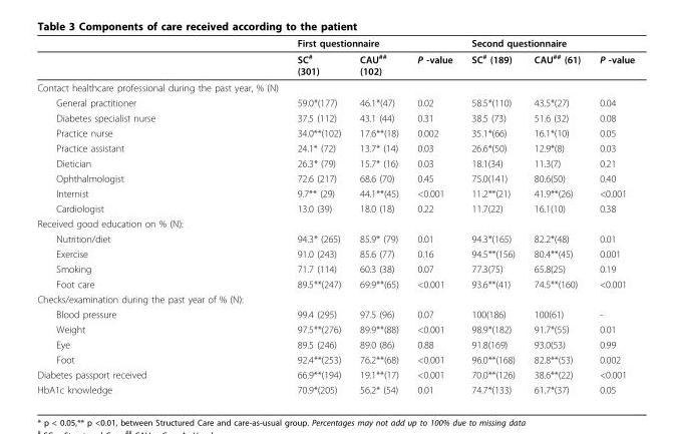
<table><thead><tr><td rowspan="2"></td><td colspan="3">First questionnaire</td><td colspan="3">Second questionnaire</td></tr><tr><td>SC<sup>#</sup> (301)</td><td>CAU<sup>##</sup> (102)</td><td>P -value</td><td>SC<sup>#</sup> (189)</td><td>CAU<sup>##</sup> (61)</td><td>P -value</td></tr></thead><tbody><tr><td colspan="7">Contact healthcare professional during the past year, % (N)</td></tr><tr><td>General practitioner</td><td>59.0*(177)</td><td>46.1*(47)</td><td>0.02</td><td>58.5*(110)</td><td>43.5*(27)</td><td>0.04</td></tr><tr><td>Diabetes specialist nurse</td><td>37.5 (112)</td><td>43.1 (44)</td><td>0.31</td><td>38.5 (73)</td><td>51.6 (32)</td><td>0.08</td></tr><tr><td>Practice nurse</td><td>34.0**(102)</td><td>17.6**(18)</td><td>0.002</td><td>35.1*(66)</td><td>16.1*(10)</td><td>0.05</td></tr><tr><td>Practice assistant</td><td>24.1* (72)</td><td>13.7* (14)</td><td>0.03</td><td>26.6*(50)</td><td>12.9*(8)</td><td>0.03</td></tr><tr><td>Dietician</td><td>26.3* (79)</td><td>15.7* (16)</td><td>0.03</td><td>18.1(34)</td><td>11.3(7)</td><td>0.21</td></tr><tr><td>Ophthalmologist</td><td>72.6 (217)</td><td>68.6 (70)</td><td>0.45</td><td>75.0(141)</td><td>80.6(50)</td><td>0.40</td></tr><tr><td>Internist</td><td>9.7** (29)</td><td>44.1**(45)</td><td>&lt;0.001</td><td>11.2**(21)</td><td>41.9**(26)</td><td>&lt;0.001</td></tr><tr><td>Cardiologist</td><td>13.0 (39)</td><td>18.0 (18)</td><td>0.22</td><td>11.7(22)</td><td>16.1(10)</td><td>0.38</td></tr><tr><td colspan="7">Received good education on % (N):</td></tr><tr><td>Nutrition/diet</td><td>94.3* (265)</td><td>85.9* (79)</td><td>0.01</td><td>94.3*(165)</td><td>82.2*(48)</td><td>0.01</td></tr><tr><td>Exercise</td><td>91.0 (243)</td><td>85.6 (77)</td><td>0.16</td><td>94.5**(156)</td><td>80.4**(45)</td><td>0.001</td></tr><tr><td>Smoking</td><td>71.7 (114)</td><td>60.3 (38)</td><td>0.07</td><td>77.3(75)</td><td>65.8(25)</td><td>0.19</td></tr><tr><td>Foot care</td><td>89.5**(247)</td><td>69.9**(65)</td><td>&lt;0.001</td><td>93.6**(41)</td><td>74.5**(160)</td><td>&lt;0.001</td></tr><tr><td colspan="7">Checks/examination during the past year of % (N):</td></tr><tr><td>Blood pressure</td><td>99.4 (295)</td><td>97.5 (96)</td><td>0.07</td><td>100(186)</td><td>100(61)</td><td>-</td></tr><tr><td>Weight</td><td>97.5**(276)</td><td>89.9**(88)</td><td>&lt;0.001</td><td>98.9*(182)</td><td>91.7*(55)</td><td>0.01</td></tr><tr><td>Eye</td><td>89.5 (246)</td><td>89.0 (86)</td><td>0.88</td><td>91.8(169)</td><td>93.0(53)</td><td>0.99</td></tr><tr><td>Foot</td><td>92.4**(253)</td><td>76.2**(68)</td><td>&lt;0.001</td><td>96.0**(168)</td><td>82.8**(53)</td><td>0.002</td></tr><tr><td>Diabetes passport received</td><td>66.9**(194)</td><td>19.1**(17)</td><td>&lt;0.001</td><td>70.0**(126)</td><td>38.6**(22)</td><td>&lt;0.001</td></tr><tr><td>HbA1c knowledge</td><td>70.9*(205)</td><td>56.2* (54)</td><td>0.01</td><td>74.7*(133)</td><td>61.7*(37)</td><td>0.05</td></tr></tbody></table>